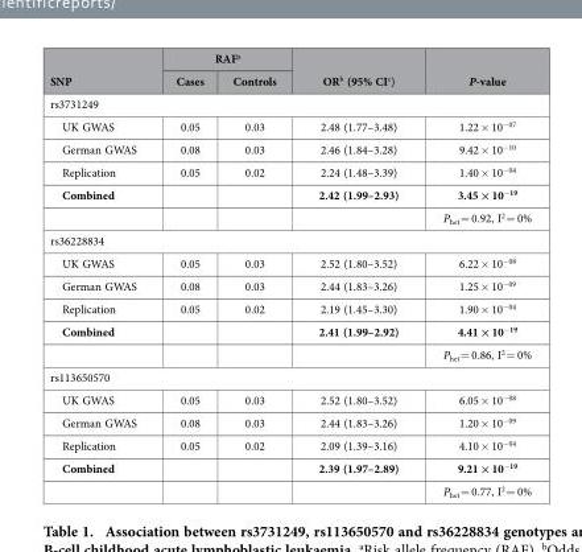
<table><thead><tr><td rowspan="2">SNP</td><td colspan="2">RAF<sup>a</sup></td><td rowspan="2">OR<sup>b</sup> (95% CI<sup>c</sup>)</td><td rowspan="2">P-value</td></tr><tr><td>Cases</td><td>Controls</td></tr></thead><tbody><tr><td colspan="5">rs3731249</td></tr><tr><td>UK GWAS</td><td>0.05</td><td>0.03</td><td>2.48 (1.77–3.48)</td><td>1.22 × 10<sup>−07</sup></td></tr><tr><td>German GWAS</td><td>0.08</td><td>0.03</td><td>2.46 (1.84–3.28)</td><td>9.42 × 10<sup>−10</sup></td></tr><tr><td>Replication</td><td>0.05</td><td>0.02</td><td>2.24 (1.48–3.39)</td><td>1.40 × 10<sup>−04</sup></td></tr><tr><td rowspan="2">Combined</td><td></td><td></td><td>2.42 (1.99–2.93)</td><td>3.45 × 10<sup>−19</sup></td></tr><tr><td></td><td></td><td></td><td>P<sub>het</sub> = 0.92, I<sup>2</sup> = 0%</td></tr><tr><td colspan="5">rs36228834</td></tr><tr><td>UK GWAS</td><td>0.05</td><td>0.03</td><td>2.52 (1.80–3.52)</td><td>6.22 × 10<sup>−08</sup></td></tr><tr><td>German GWAS</td><td>0.08</td><td>0.03</td><td>2.44 (1.83–3.26)</td><td>1.25 × 10<sup>−09</sup></td></tr><tr><td>Replication</td><td>0.05</td><td>0.02</td><td>2.19 (1.45–3.30)</td><td>1.90 × 10<sup>−04</sup></td></tr><tr><td rowspan="2">Combined</td><td></td><td></td><td>2.41 (1.99–2.92)</td><td>4.41 × 10<sup>−19</sup></td></tr><tr><td></td><td></td><td></td><td>P<sub>het</sub> = 0.86, I<sup>2</sup> = 0%</td></tr><tr><td colspan="5">rs113650570</td></tr><tr><td>UK GWAS</td><td>0.05</td><td>0.03</td><td>2.52 (1.80–3.52)</td><td>6.05 × 10<sup>−08</sup></td></tr><tr><td>German GWAS</td><td>0.08</td><td>0.03</td><td>2.44 (1.83–3.26)</td><td>1.20 × 10<sup>−09</sup></td></tr><tr><td>Replication</td><td>0.05</td><td>0.02</td><td>2.09 (1.39–3.16)</td><td>4.10 × 10<sup>−04</sup></td></tr><tr><td rowspan="2">Combined</td><td></td><td></td><td>2.39 (1.97–2.89)</td><td>9.21 × 10<sup>−19</sup></td></tr><tr><td></td><td></td><td></td><td>P<sub>het</sub> = 0.77, I<sup>2</sup> = 0%</td></tr></tbody></table>